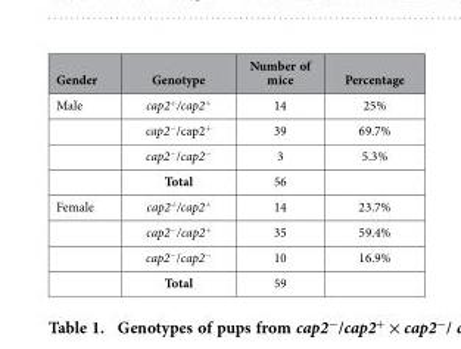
<table><thead><tr><td>Gender</td><td>Genotype</td><td>Number of mice</td><td>Percentage</td></tr></thead><tbody><tr><td rowspan="4">Male</td><td>cap2<sup>+</sup>/cap2<sup>+</sup></td><td>14</td><td>25%</td></tr><tr><td>cap2<sup>−</sup>/cap2<sup>+</sup></td><td>39</td><td>69.7%</td></tr><tr><td>cap2<sup>−</sup>/cap2<sup>−</sup></td><td>3</td><td>5.3%</td></tr><tr><td>Total</td><td>56</td><td></td></tr><tr><td rowspan="4">Female</td><td>cap2<sup>+</sup>/cap2<sup>+</sup></td><td>14</td><td>23.7%</td></tr><tr><td>cap2<sup>−</sup>/cap2<sup>+</sup></td><td>35</td><td>59.4%</td></tr><tr><td>cap2<sup>−</sup>/cap2<sup>−</sup></td><td>10</td><td>16.9%</td></tr><tr><td>Total</td><td>59</td><td></td></tr></tbody></table>